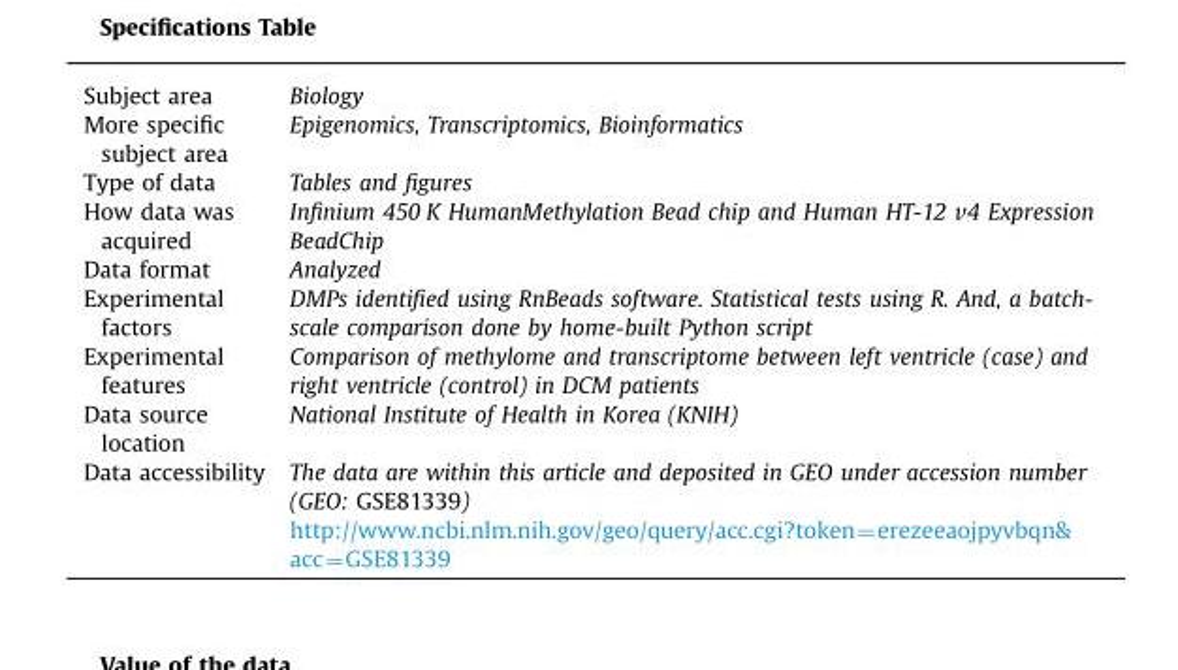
<table><tbody><tr><td>Subject area</td><td>Biology</td></tr><tr><td>More specific subject area</td><td>Epigenomics, Transcriptomics, Bioinformatics</td></tr><tr><td>Type of data</td><td>Tables and figures</td></tr><tr><td>How data was acquired</td><td>Infinium 450 K HumanMethylation Bead chip and Human HT-12 v4 Expression BeadChip</td></tr><tr><td>Data format</td><td>Analyzed</td></tr><tr><td>Experimental factors</td><td>DMPs identified using RnBeads software. Statistical tests using R. And, a batch- scale comparison done by home-built Python script</td></tr><tr><td>Experimental features</td><td>Comparison of methylome and transcriptome between left ventricle (case) and right ventricle (control) in DCM patients</td></tr><tr><td>Data source location</td><td>National Institute of Health in Korea (KNIH)</td></tr><tr><td rowspan="2">Data accessibility</td><td>The data are within this article and deposited in GEO under accession number (GEO: GSE81339)</td></tr><tr><td>http://www.ncbi.nlm.nih.gov/geo/query/acc.cgi?token=erezeeaojpyvbqn&amp; acc=GSE81339</td></tr></tbody></table>